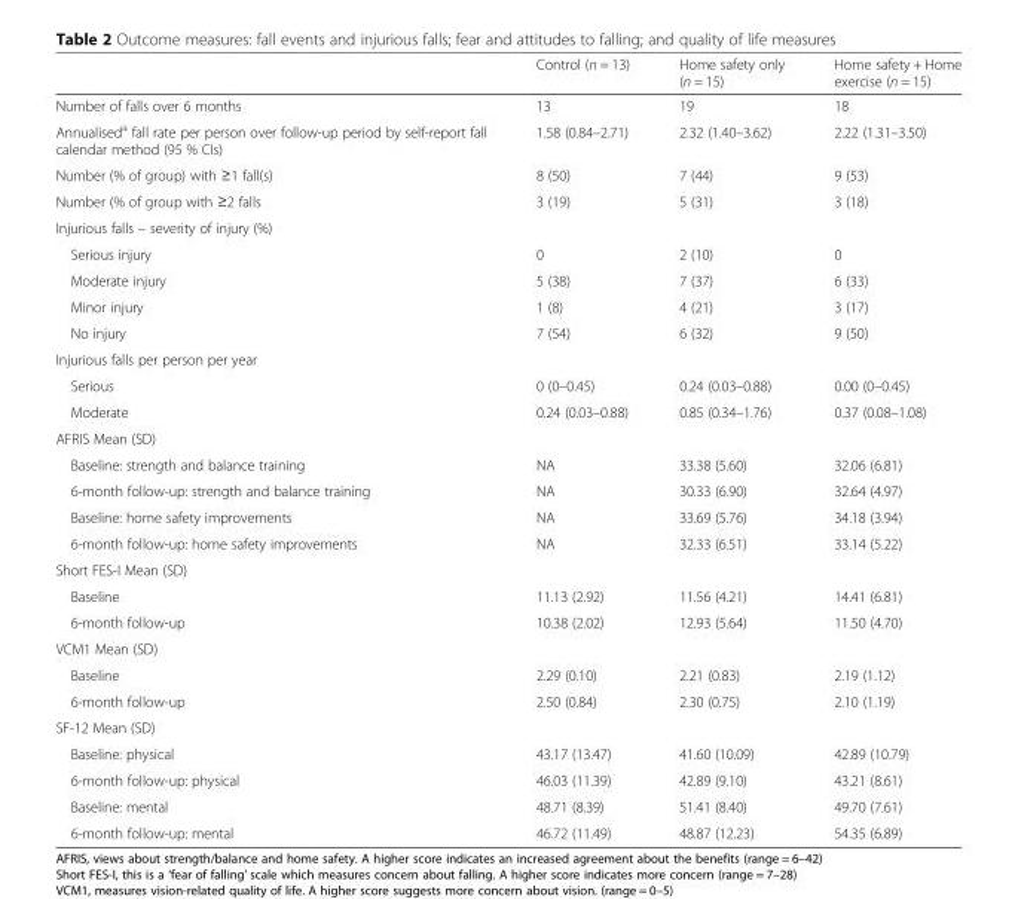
<table><thead><tr><td></td><td>Control (n = 13)</td><td>Home safety only (n = 15)</td><td>Home safety + Home exercise (n = 15)</td></tr></thead><tbody><tr><td>Number of falls over 6 months</td><td>13</td><td>19</td><td>18</td></tr><tr><td>Annualised<sup>a</sup> fall rate per person over follow-up period by self-report fall calendar method (95 % CIs)</td><td>1.58 (0.84–2.71)</td><td>2.32 (1.40–3.62)</td><td>2.22 (1.31–3.50)</td></tr><tr><td>Number (% of group) with ≥1 fall(s)</td><td>8 (50)</td><td>7 (44)</td><td>9 (53)</td></tr><tr><td>Number (% of group with ≥2 falls</td><td>3 (19)</td><td>5 (31)</td><td>3 (18)</td></tr><tr><td colspan="4">Injurious falls – severity of injury (%)</td></tr><tr><td>Serious injury</td><td>0</td><td>2 (10)</td><td>0</td></tr><tr><td>Moderate injury</td><td>5 (38)</td><td>7 (37)</td><td>6 (33)</td></tr><tr><td>Minor injury</td><td>1 (8)</td><td>4 (21)</td><td>3 (17)</td></tr><tr><td>No injury</td><td>7 (54)</td><td>6 (32)</td><td>9 (50)</td></tr><tr><td colspan="4">Injurious falls per person per year</td></tr><tr><td>Serious</td><td>0 (0–0.45)</td><td>0.24 (0.03–0.88)</td><td>0.00 (0–0.45)</td></tr><tr><td>Moderate</td><td>0.24 (0.03–0.88)</td><td>0.85 (0.34–1.76)</td><td>0.37 (0.08–1.08)</td></tr><tr><td colspan="4">AFRIS Mean (SD)</td></tr><tr><td>Baseline: strength and balance training</td><td>NA</td><td>33.38 (5.60)</td><td>32.06 (6.81)</td></tr><tr><td>6-month follow-up: strength and balance training</td><td>NA</td><td>30.33 (6.90)</td><td>32.64 (4.97)</td></tr><tr><td>Baseline: home safety improvements</td><td>NA</td><td>33.69 (5.76)</td><td>34.18 (3.94)</td></tr><tr><td>6-month follow-up: home safety improvements</td><td>NA</td><td>32.33 (6.51)</td><td>33.14 (5.22)</td></tr><tr><td colspan="4">Short FES-I Mean (SD)</td></tr><tr><td>Baseline</td><td>11.13 (2.92)</td><td>11.56 (4.21)</td><td>14.41 (6.81)</td></tr><tr><td>6-month follow-up</td><td>10.38 (2.02)</td><td>12.93 (5.64)</td><td>11.50 (4.70)</td></tr><tr><td colspan="4">VCM1 Mean (SD)</td></tr><tr><td>Baseline</td><td>2.29 (0.10)</td><td>2.21 (0.83)</td><td>2.19 (1.12)</td></tr><tr><td>6-month follow-up</td><td>2.50 (0.84)</td><td>2.30 (0.75)</td><td>2.10 (1.19)</td></tr><tr><td colspan="4">SF-12 Mean (SD)</td></tr><tr><td>Baseline: physical</td><td>43.17 (13.47)</td><td>41.60 (10.09)</td><td>42.89 (10.79)</td></tr><tr><td>6-month follow-up: physical</td><td>46.03 (11.39)</td><td>42.89 (9.10)</td><td>43.21 (8.61)</td></tr><tr><td>Baseline: mental</td><td>48.71 (8.39)</td><td>51.41 (8.40)</td><td>49.70 (7.61)</td></tr><tr><td>6-month follow-up: mental</td><td>46.72 (11.49)</td><td>48.87 (12.23)</td><td>54.35 (6.89)</td></tr></tbody></table>